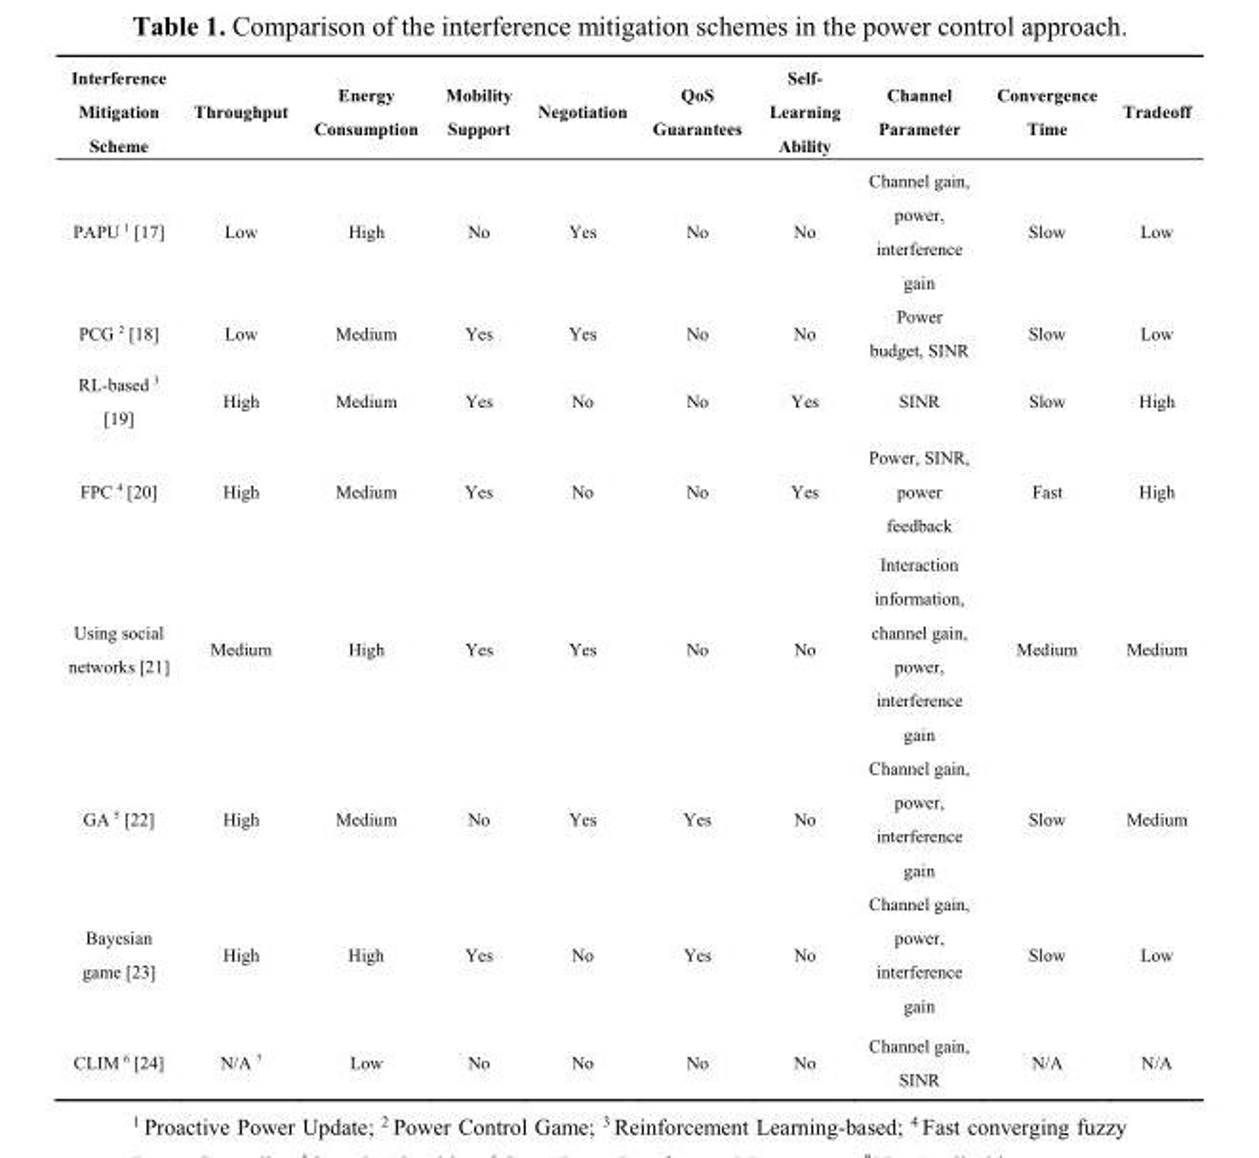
<table><thead><tr><td>Interference Mitigation Scheme</td><td>Throughput</td><td>Energy Consumption</td><td>Mobility Support</td><td>Negotiation</td><td>QoS Guarantees</td><td>Self- Learning Ability</td><td>Channel Parameter</td><td>Convergence Time</td><td>Tradeoff</td></tr></thead><tbody><tr><td>PAPU <sup>1</sup> [17]</td><td>Low</td><td>High</td><td>No</td><td>Yes</td><td>No</td><td>No</td><td>Channel gain, power, interference gain</td><td>Slow</td><td>Low</td></tr><tr><td>PCG <sup>2</sup> [18]</td><td>Low</td><td>Medium</td><td>Yes</td><td>Yes</td><td>No</td><td>No</td><td>Power budget, SINR</td><td>Slow</td><td>Low</td></tr><tr><td>RL-based <sup>3</sup> [19]</td><td>High</td><td>Medium</td><td>Yes</td><td>No</td><td>No</td><td>Yes</td><td>SINR</td><td>Slow</td><td>High</td></tr><tr><td>FPC <sup>4</sup> [20]</td><td>High</td><td>Medium</td><td>Yes</td><td>No</td><td>No</td><td>Yes</td><td>Power, SINR, power feedback</td><td>Fast</td><td>High</td></tr><tr><td>Using social networks [21]</td><td>Medium</td><td>High</td><td>Yes</td><td>Yes</td><td>No</td><td>No</td><td>Interaction information, channel gain, power, interference gain</td><td>Medium</td><td>Medium</td></tr><tr><td>GA <sup>5</sup> [22]</td><td>High</td><td>Medium</td><td>No</td><td>Yes</td><td>Yes</td><td>No</td><td>Channel gain, power, interference gain</td><td>Slow</td><td>Medium</td></tr><tr><td>Bayesian game [23]</td><td>High</td><td>High</td><td>Yes</td><td>No</td><td>Yes</td><td>No</td><td>Channel gain, power, interference gain</td><td>Slow</td><td>Low</td></tr><tr><td>CLIM <sup>6</sup> [24]</td><td>N/A <sup>7</sup></td><td>Low</td><td>No</td><td>No</td><td>No</td><td>No</td><td>Channel gain, SINR</td><td>N/A</td><td>N/A</td></tr></tbody></table>